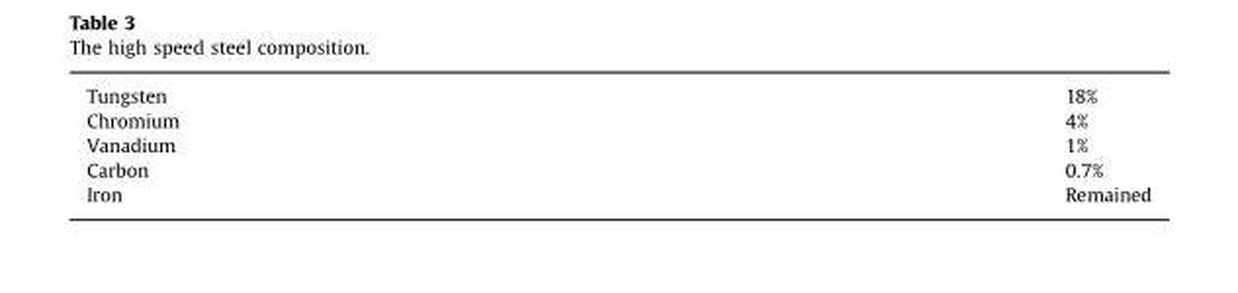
<table><tbody><tr><td>Tungsten</td><td>18%</td></tr><tr><td>Chromium</td><td>4%</td></tr><tr><td>Vanadium</td><td>1%</td></tr><tr><td>Carbon</td><td>0.7%</td></tr><tr><td>Iron</td><td>Remained</td></tr></tbody></table>